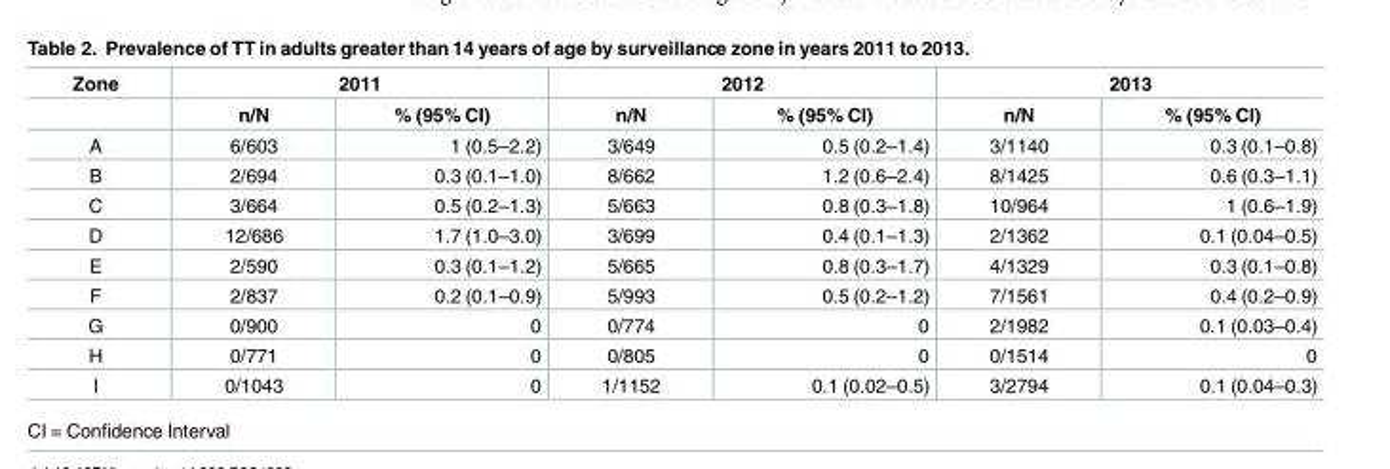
<table><thead><tr><td rowspan="2">Zone</td><td colspan="2">2011</td><td colspan="2">2012</td><td colspan="2">2013</td></tr><tr><td>n/N</td><td>% (95% CI)</td><td>n/N</td><td>% (95% CI)</td><td>n/N</td><td>% (95% CI)</td></tr></thead><tbody><tr><td>A</td><td>6/603</td><td>1 (0.5–2.2)</td><td>3/649</td><td>0.5 (0.2–1.4)</td><td>3/1140</td><td>0.3 (0.1–0.8)</td></tr><tr><td>B</td><td>2/694</td><td>0.3 (0.1–1.0)</td><td>8/662</td><td>1.2 (0.6–2.4)</td><td>8/1425</td><td>0.6 (0.3–1.1)</td></tr><tr><td>C</td><td>3/664</td><td>0.5 (0.2–1.3)</td><td>5/663</td><td>0.8 (0.3–1.8)</td><td>10/964</td><td>1 (0.6–1.9)</td></tr><tr><td>D</td><td>12/686</td><td>1.7 (1.0–3.0)</td><td>3/699</td><td>0.4 (0.1–1.3)</td><td>2/1362</td><td>0.1 (0.04–0.5)</td></tr><tr><td>E</td><td>2/590</td><td>0.3 (0.1–1.2)</td><td>5/665</td><td>0.8 (0.3–1.7)</td><td>4/1329</td><td>0.3 (0.1–0.8)</td></tr><tr><td>F</td><td>2/837</td><td>0.2 (0.1–0.9)</td><td>5/993</td><td>0.5 (0.2–1.2)</td><td>7/1561</td><td>0.4 (0.2–0.9)</td></tr><tr><td>G</td><td>0/900</td><td>0</td><td>0/774</td><td>0</td><td>2/1982</td><td>0.1 (0.03–0.4)</td></tr><tr><td>H</td><td>0/771</td><td>0</td><td>0/805</td><td>0</td><td>0/1514</td><td>0</td></tr><tr><td>I</td><td>0/1043</td><td>0</td><td>1/1152</td><td>0.1 (0.02–0.5)</td><td>3/2794</td><td>0.1 (0.04–0.3)</td></tr></tbody></table>